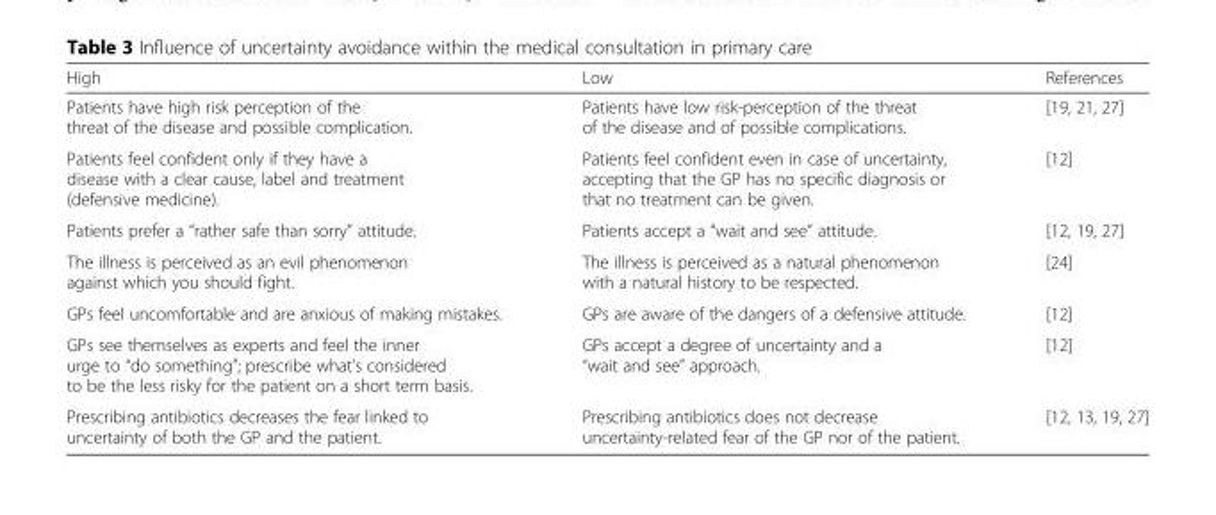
<table><thead><tr><td>High</td><td>Low</td><td>References</td></tr></thead><tbody><tr><td>Patients have high risk perception of the threat of the disease and possible complication.</td><td>Patients have low risk-perception of the threat of the disease and of possible complications.</td><td>[19, 21, 27]</td></tr><tr><td>Patients feel confident only if they have a disease with a clear cause, label and treatment (defensive medicine).</td><td>Patients feel confident even in case of uncertainty, accepting that the GP has no specific diagnosis or that no treatment can be given.</td><td>[12]</td></tr><tr><td>Patients prefer a “rather safe than sorry” attitude.</td><td>Patients accept a “wait and see” attitude.</td><td>[12, 19, 27]</td></tr><tr><td>The illness is perceived as an evil phenomenon against which you should fight.</td><td>The illness is perceived as a natural phenomenon with a natural history to be respected.</td><td>[24]</td></tr><tr><td>GPs feel uncomfortable and are anxious of making mistakes.</td><td>GPs are aware of the dangers of a defensive attitude.</td><td>[12]</td></tr><tr><td>GPs see themselves as experts and feel the inner urge to “do something”; prescribe what’s considered to be the less risky for the patient on a short term basis.</td><td>GPs accept a degree of uncertainty and a “wait and see” approach.</td><td>[12]</td></tr><tr><td>Prescribing antibiotics decreases the fear linked to uncertainty of both the GP and the patient.</td><td>Prescribing antibiotics does not decrease uncertainty-related fear of the GP nor of the patient.</td><td>[12, 13, 19, 27]</td></tr></tbody></table>